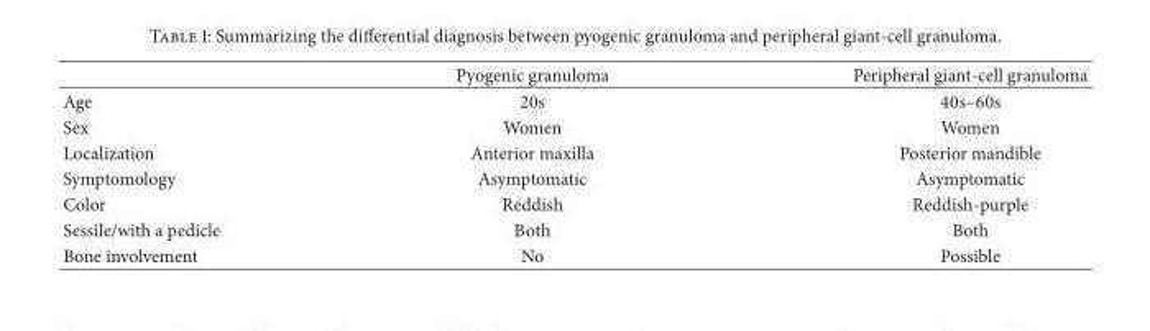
<table><thead><tr><td></td><td>Pyogenic granuloma</td><td>Peripheral giant-cell granuloma</td></tr></thead><tbody><tr><td>Age</td><td>20s</td><td>40s–60s</td></tr><tr><td>Sex</td><td>Women</td><td>Women</td></tr><tr><td>Localization</td><td>Anterior maxilla</td><td>Posterior mandible</td></tr><tr><td>Symptomology</td><td>Asymptomatic</td><td>Asymptomatic</td></tr><tr><td>Color</td><td>Reddish</td><td>Reddish-purple</td></tr><tr><td>Sessile/with a pedicle</td><td>Both</td><td>Both</td></tr><tr><td>Bone involvement</td><td>No</td><td>Possible</td></tr></tbody></table>